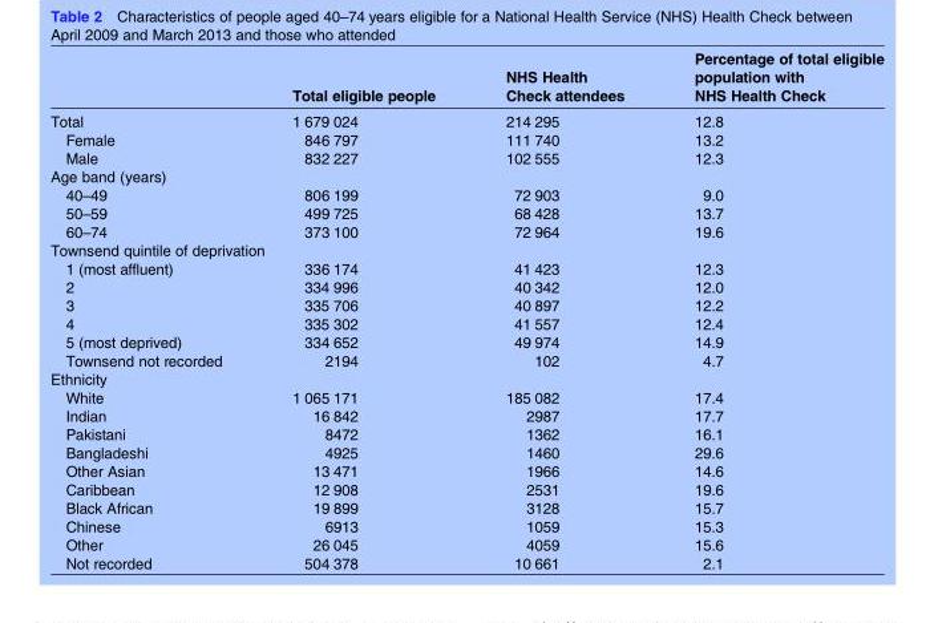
<table><thead><tr><td></td><td>Total eligible people</td><td>NHS Health Check attendees</td><td>Percentage of total eligible population with NHS Health Check</td></tr></thead><tbody><tr><td>Total</td><td>1 679 024</td><td>214 295</td><td>12.8</td></tr><tr><td>Female</td><td>846 797</td><td>111 740</td><td>13.2</td></tr><tr><td>Male</td><td>832 227</td><td>102 555</td><td>12.3</td></tr><tr><td colspan="4">Age band (years)</td></tr><tr><td>40–49</td><td>806 199</td><td>72 903</td><td>9.0</td></tr><tr><td>50–59</td><td>499 725</td><td>68 428</td><td>13.7</td></tr><tr><td>60–74</td><td>373 100</td><td>72 964</td><td>19.6</td></tr><tr><td colspan="4">Townsend quintile of deprivation</td></tr><tr><td>1 (most affluent)</td><td>336 174</td><td>41 423</td><td>12.3</td></tr><tr><td>2</td><td>334 996</td><td>40 342</td><td>12.0</td></tr><tr><td>3</td><td>335 706</td><td>40 897</td><td>12.2</td></tr><tr><td>4</td><td>335 302</td><td>41 557</td><td>12.4</td></tr><tr><td>5 (most deprived)</td><td>334 652</td><td>49 974</td><td>14.9</td></tr><tr><td>Townsend not recorded</td><td>2194</td><td>102</td><td>4.7</td></tr><tr><td colspan="4">Ethnicity</td></tr><tr><td>White</td><td>1 065 171</td><td>185 082</td><td>17.4</td></tr><tr><td>Indian</td><td>16 842</td><td>2987</td><td>17.7</td></tr><tr><td>Pakistani</td><td>8472</td><td>1362</td><td>16.1</td></tr><tr><td>Bangladeshi</td><td>4925</td><td>1460</td><td>29.6</td></tr><tr><td>Other Asian</td><td>13 471</td><td>1966</td><td>14.6</td></tr><tr><td>Caribbean</td><td>12 908</td><td>2531</td><td>19.6</td></tr><tr><td>Black African</td><td>19 899</td><td>3128</td><td>15.7</td></tr><tr><td>Chinese</td><td>6913</td><td>1059</td><td>15.3</td></tr><tr><td>Other</td><td>26 045</td><td>4059</td><td>15.6</td></tr><tr><td>Not recorded</td><td>504 378</td><td>10 661</td><td>2.1</td></tr></tbody></table>